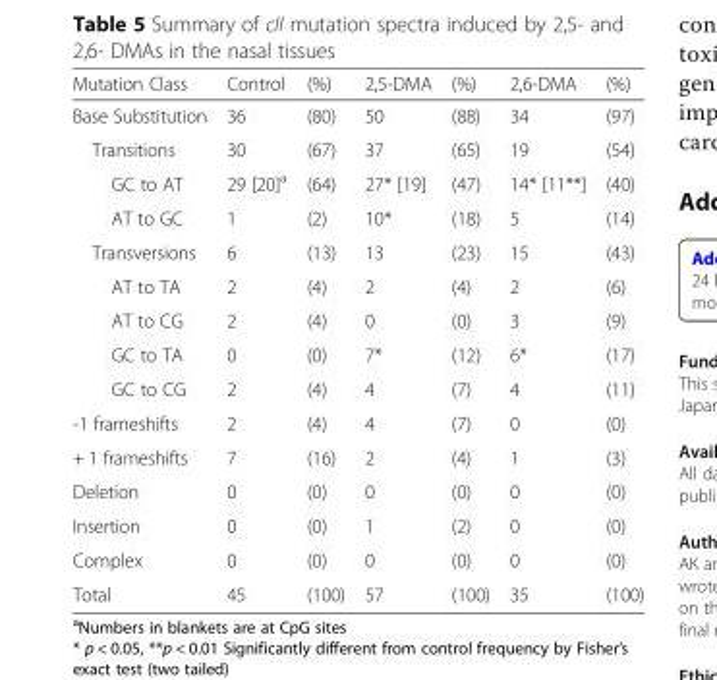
<table><thead><tr><td>Mutation Class</td><td>Control</td><td>(%)</td><td>2,5-DMA</td><td>(%)</td><td>2,6-DMA</td><td>(%)</td></tr></thead><tbody><tr><td>Base Substitution</td><td>36</td><td>(80)</td><td>50</td><td>(88)</td><td>34</td><td>(97)</td></tr><tr><td>Transitions</td><td>30</td><td>(67)</td><td>37</td><td>(65)</td><td>19</td><td>(54)</td></tr><tr><td>GC to AT</td><td>29 [20]<sup>a</sup></td><td>(64)</td><td>27* [19]</td><td>(47)</td><td>14* [11**]</td><td>(40)</td></tr><tr><td>AT to GC</td><td>1</td><td>(2)</td><td>10*</td><td>(18)</td><td>5</td><td>(14)</td></tr><tr><td>Transversions</td><td>6</td><td>(13)</td><td>13</td><td>(23)</td><td>15</td><td>(43)</td></tr><tr><td>AT to TA</td><td>2</td><td>(4)</td><td>2</td><td>(4)</td><td>2</td><td>(6)</td></tr><tr><td>AT to CG</td><td>2</td><td>(4)</td><td>0</td><td>(0)</td><td>3</td><td>(9)</td></tr><tr><td>GC to TA</td><td>0</td><td>(0)</td><td>7*</td><td>(12)</td><td>6*</td><td>(17)</td></tr><tr><td>GC to CG</td><td>2</td><td>(4)</td><td>4</td><td>(7)</td><td>4</td><td>(11)</td></tr><tr><td>-1 frameshifts</td><td>2</td><td>(4)</td><td>4</td><td>(7)</td><td>0</td><td>(0)</td></tr><tr><td>+ 1 frameshifts</td><td>7</td><td>(16)</td><td>2</td><td>(4)</td><td>1</td><td>(3)</td></tr><tr><td>Deletion</td><td>0</td><td>(0)</td><td>0</td><td>(0)</td><td>0</td><td>(0)</td></tr><tr><td>Insertion</td><td>0</td><td>(0)</td><td>1</td><td>(2)</td><td>0</td><td>(0)</td></tr><tr><td>Complex</td><td>0</td><td>(0)</td><td>0</td><td>(0)</td><td>0</td><td>(0)</td></tr><tr><td>Total</td><td>45</td><td>(100)</td><td>57</td><td>(100)</td><td>35</td><td>(100)</td></tr></tbody></table>